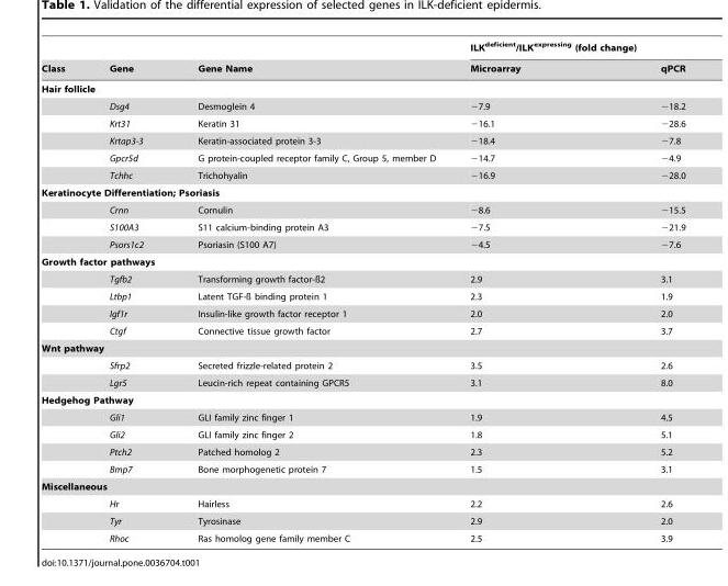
<table><thead><tr><td rowspan="2">Class</td><td rowspan="2">Gene</td><td rowspan="2">Gene Name</td><td colspan="2">ILK<sup>deficient</sup>/ILK<sup>expressing</sup> (fold change)</td></tr><tr><td>Microarray</td><td>qPCR</td></tr></thead><tbody><tr><td colspan="5">Hair follicle</td></tr><tr><td></td><td>Dsg4</td><td>Desmoglein 4</td><td>−7.9</td><td>−18.2</td></tr><tr><td></td><td>Krt31</td><td>Keratin 31</td><td>−16.1</td><td>−28.6</td></tr><tr><td></td><td>Krtap3-3</td><td>Keratin-associated protein 3-3</td><td>−18.4</td><td>−7.8</td></tr><tr><td></td><td>Gpcr5d</td><td>G protein-coupled receptor family C, Group 5, member D</td><td>−14.7</td><td>−4.9</td></tr><tr><td></td><td>Tchhc</td><td>Trichohyalin</td><td>−16.9</td><td>−28.0</td></tr><tr><td colspan="5">Keratinocyte Differentiation; Psoriasis</td></tr><tr><td></td><td>Crnn</td><td>Cornulin</td><td>−8.6</td><td>−15.5</td></tr><tr><td></td><td>S100A3</td><td>S11 calcium-binding protein A3</td><td>−7.5</td><td>−21.9</td></tr><tr><td></td><td>Psors1c2</td><td>Psoriasin (S100 A7)</td><td>−4.5</td><td>−7.6</td></tr><tr><td colspan="5">Growth factor pathways</td></tr><tr><td></td><td>Tgfb2</td><td>Transforming growth factor-ß2</td><td>2.9</td><td>3.1</td></tr><tr><td></td><td>Ltbp1</td><td>Latent TGF-ß binding protein 1</td><td>2.3</td><td>1.9</td></tr><tr><td></td><td>Igf1r</td><td>Insulin-like growth factor receptor 1</td><td>2.0</td><td>2.0</td></tr><tr><td></td><td>Ctgf</td><td>Connective tissue growth factor</td><td>2.7</td><td>3.7</td></tr><tr><td colspan="5">Wnt pathway</td></tr><tr><td></td><td>Sfrp2</td><td>Secreted frizzle-related protein 2</td><td>3.5</td><td>2.6</td></tr><tr><td></td><td>Lgr5</td><td>Leucin-rich repeat containing GPCR5</td><td>3.1</td><td>8.0</td></tr><tr><td colspan="5">Hedgehog Pathway</td></tr><tr><td></td><td>Gli1</td><td>GLI family zinc finger 1</td><td>1.9</td><td>4.5</td></tr><tr><td></td><td>Gli2</td><td>GLI family zinc finger 2</td><td>1.8</td><td>5.1</td></tr><tr><td></td><td>Ptch2</td><td>Patched homolog 2</td><td>2.3</td><td>5.2</td></tr><tr><td></td><td>Bmp7</td><td>Bone morphogenetic protein 7</td><td>1.5</td><td>3.1</td></tr><tr><td colspan="5">Miscellaneous</td></tr><tr><td></td><td>Hr</td><td>Hairless</td><td>2.2</td><td>2.6</td></tr><tr><td></td><td>Tyr</td><td>Tyrosinase</td><td>2.9</td><td>2.0</td></tr><tr><td></td><td>Rhoc</td><td>Ras homolog gene family member C</td><td>2.5</td><td>3.9</td></tr></tbody></table>